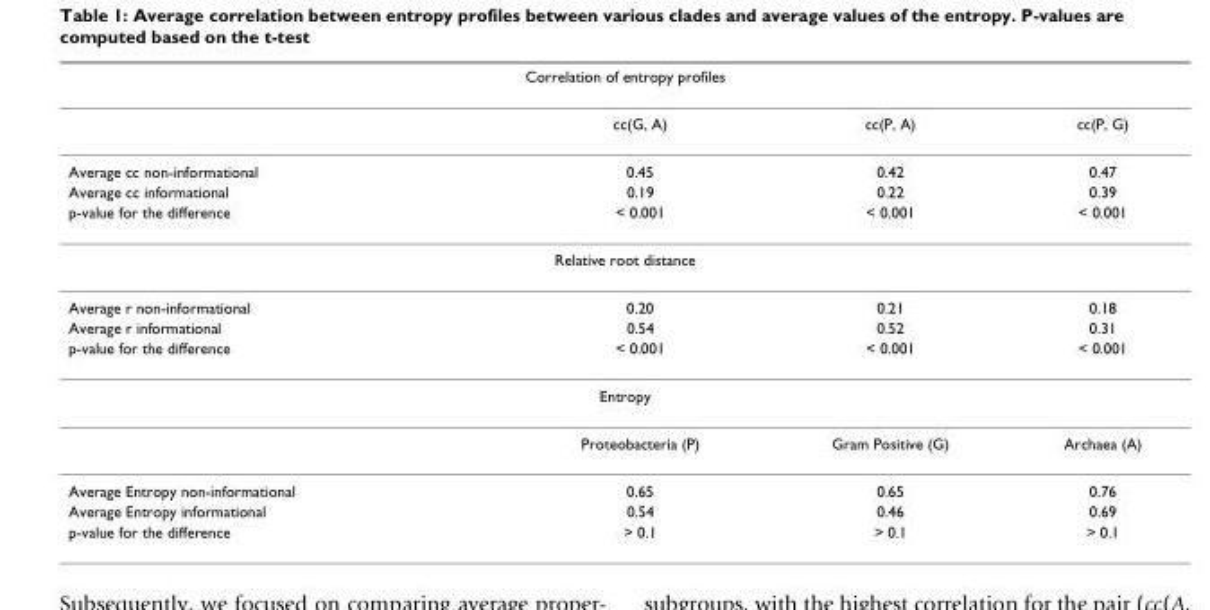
<table><thead><tr><td colspan="4">Correlation of entropy profiles</td></tr><tr><td></td><td>cc(G, A)</td><td>cc(P, A)</td><td>cc(P, G)</td></tr></thead><tbody><tr><td>Average cc non-informational</td><td>0.45</td><td>0.42</td><td>0.47</td></tr><tr><td>Average cc informational</td><td>0.19</td><td>0.22</td><td>0.39</td></tr><tr><td>p-value for the difference</td><td>&lt; 0.001</td><td>&lt; 0.001</td><td>&lt; 0.001</td></tr><tr><td colspan="4">Relative root distance</td></tr><tr><td>Average r non-informational</td><td>0.20</td><td>0.21</td><td>0.18</td></tr><tr><td>Average r informational</td><td>0.54</td><td>0.52</td><td>0.31</td></tr><tr><td>p-value for the difference</td><td>&lt; 0.001</td><td>&lt; 0.001</td><td>&lt; 0.001</td></tr><tr><td colspan="4">Entropy</td></tr><tr><td></td><td>Proteobacteria (P)</td><td>Gram Positive (G)</td><td>Archaea (A)</td></tr><tr><td>Average Entropy non-informational</td><td>0.65</td><td>0.65</td><td>0.76</td></tr><tr><td>Average Entropy informational</td><td>0.54</td><td>0.46</td><td>0.69</td></tr><tr><td>p-value for the difference</td><td>&gt; 0.1</td><td>&gt; 0.1</td><td>&gt; 0.1</td></tr></tbody></table>